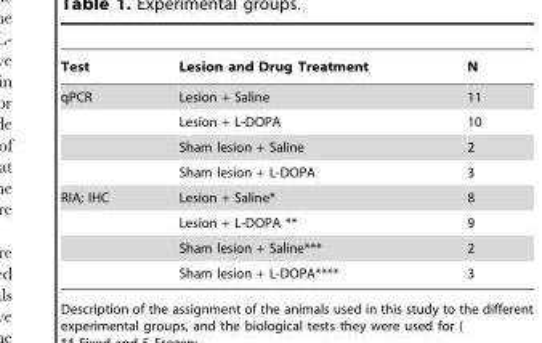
<table><thead><tr><td>Test</td><td>Lesion and Drug Treatment</td><td>N</td></tr></thead><tbody><tr><td rowspan="4">qPCR</td><td>Lesion + Saline</td><td>11</td></tr><tr><td>Lesion + L-DOPA</td><td>10</td></tr><tr><td>Sham lesion + Saline</td><td>2</td></tr><tr><td>Sham lesion + L-DOPA</td><td>3</td></tr><tr><td rowspan="4">RIA; IHC</td><td>Lesion + Saline*</td><td>8</td></tr><tr><td>Lesion + L-DOPA **</td><td>9</td></tr><tr><td>Sham lesion + Saline***</td><td>2</td></tr><tr><td>Sham lesion + L-DOPA****</td><td>3</td></tr></tbody></table>